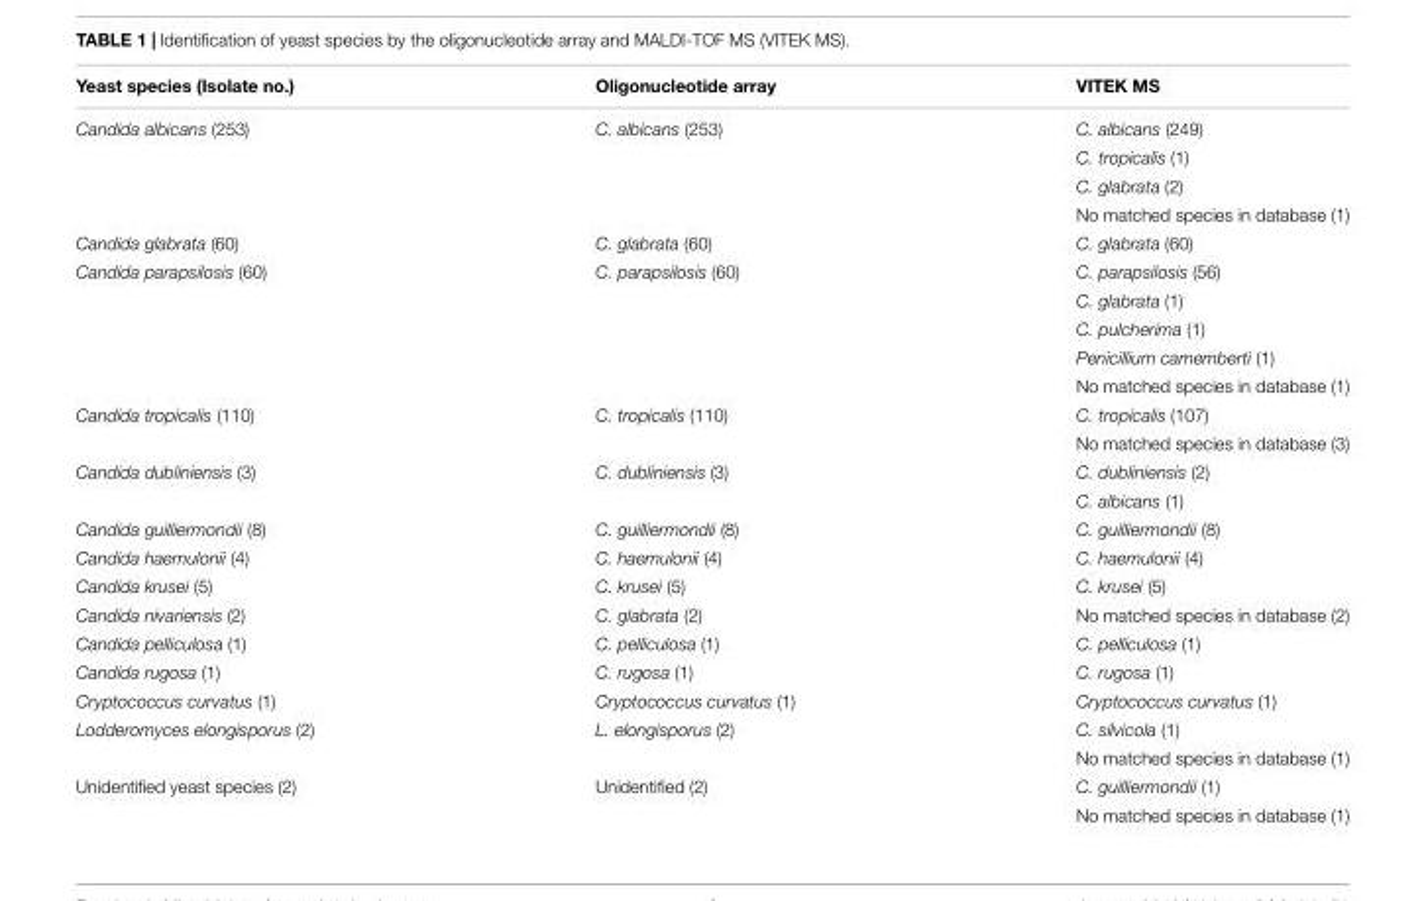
<table><thead><tr><td>Yeast species (Isolate no.)</td><td>Oligonucleotide array</td><td>VITEK MS</td></tr></thead><tbody><tr><td rowspan="4">Candida albicans (253)</td><td>C. albicans (253)</td><td>C. albicans (249)</td></tr><tr><td></td><td>C. tropicalis (1)</td></tr><tr><td></td><td>C. glabrata (2)</td></tr><tr><td></td><td>No matched species in database (1)</td></tr><tr><td>Candida glabrata (60)</td><td>C. glabrata (60)</td><td>C. glabrata (60)</td></tr><tr><td rowspan="5">Candida parapsilosis (60)</td><td>C. parapsilosis (60)</td><td>C. parapsilosis (56)</td></tr><tr><td></td><td>C. glabrata (1)</td></tr><tr><td></td><td>C. pulcherima (1)</td></tr><tr><td></td><td>Penicillium camemberti (1)</td></tr><tr><td></td><td>No matched species in database (1)</td></tr><tr><td rowspan="2">Candida tropicalis (110)</td><td>C. tropicalis (110)</td><td>C. tropicalis (107)</td></tr><tr><td></td><td>No matched species in database (3)</td></tr><tr><td rowspan="2">Candida dubliniensis (3)</td><td>C. dubliniensis (3)</td><td>C. dubliniensis (2)</td></tr><tr><td></td><td>C. albicans (1)</td></tr><tr><td>Candida guilliermondii (8)</td><td>C. guilliermondii (8)</td><td>C. guilliermondii (8)</td></tr><tr><td>Candida haemulonii (4)</td><td>C. haemulonii (4)</td><td>C. haemulonii (4)</td></tr><tr><td>Candida krusei (5)</td><td>C. krusei (5)</td><td>C. krusei (5)</td></tr><tr><td>Candida nivariensis (2)</td><td>C. glabrata (2)</td><td>No matched species in database (2)</td></tr><tr><td>Candida pelliculosa (1)</td><td>C. pelliculosa (1)</td><td>C. pelliculosa (1)</td></tr><tr><td>Candida rugosa (1)</td><td>C. rugosa (1)</td><td>C. rugosa (1)</td></tr><tr><td>Cryptococcus curvatus (1)</td><td>Cryptococcus curvatus (1)</td><td>Cryptococcus curvatus (1)</td></tr><tr><td rowspan="2">Lodderomyces elongisporus (2)</td><td>L. elongisporus (2)</td><td>C. silvicola (1)</td></tr><tr><td></td><td>No matched species in database (1)</td></tr><tr><td rowspan="2">Unidentified yeast species (2)</td><td>Unidentified (2)</td><td>C. guilliermondii (1)</td></tr><tr><td></td><td>No matched species in database (1)</td></tr></tbody></table>